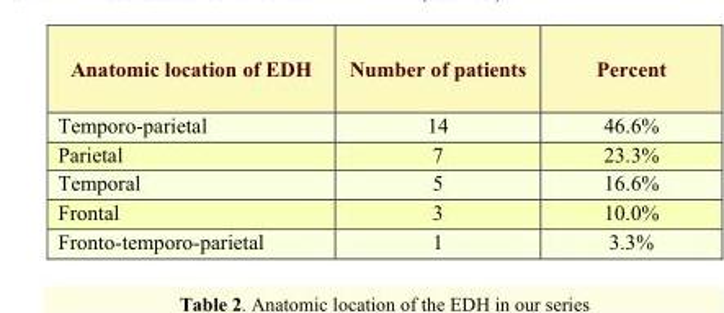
<table><thead><tr><td>Anatomic location of EDH</td><td>Number of patients</td><td>Percent</td></tr></thead><tbody><tr><td>Temporo-parietal</td><td>14</td><td>46.6%</td></tr><tr><td>Parietal</td><td>7</td><td>23.3%</td></tr><tr><td>Temporal</td><td>5</td><td>16.6%</td></tr><tr><td>Frontal</td><td>3</td><td>10.0%</td></tr><tr><td>Fronto-temporo-parietal</td><td>1</td><td>3.3%</td></tr></tbody></table>